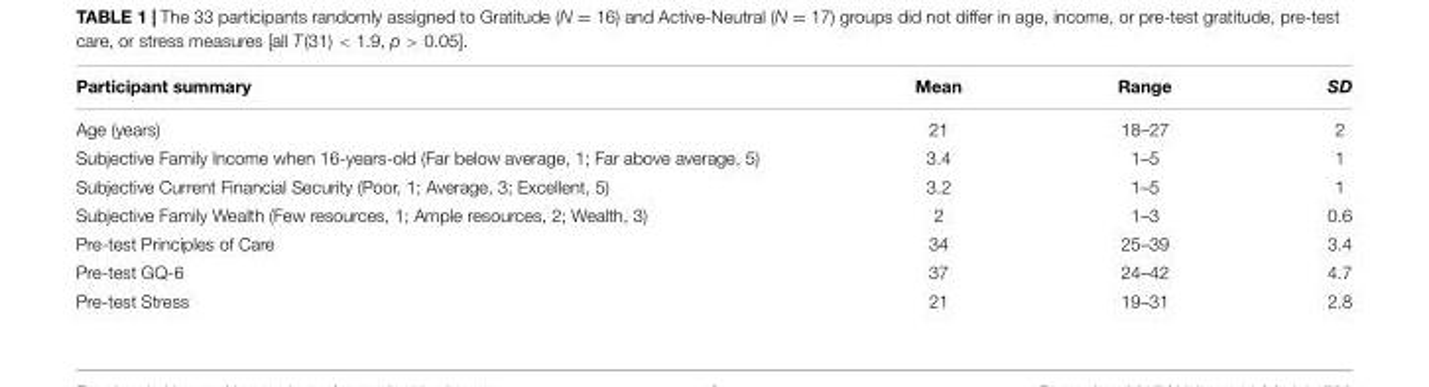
<table><thead><tr><td>Participant summary</td><td>Mean</td><td>Range</td><td>SD</td></tr></thead><tbody><tr><td>Age (years)</td><td>21</td><td>18–27</td><td>2</td></tr><tr><td>Subjective Family Income when 16-years-old (Far below average, 1; Far above average, 5)</td><td>3.4</td><td>1–5</td><td>1</td></tr><tr><td>Subjective Current Financial Security (Poor, 1; Average, 3; Excellent, 5)</td><td>3.2</td><td>1–5</td><td>1</td></tr><tr><td>Subjective Family Wealth (Few resources, 1; Ample resources, 2; Wealth, 3)</td><td>2</td><td>1–3</td><td>0.6</td></tr><tr><td>Pre-test Principles of Care</td><td>34</td><td>25–39</td><td>3.4</td></tr><tr><td>Pre-test GQ-6</td><td>37</td><td>24–42</td><td>4.7</td></tr><tr><td>Pre-test Stress</td><td>21</td><td>19–31</td><td>2.8</td></tr></tbody></table>